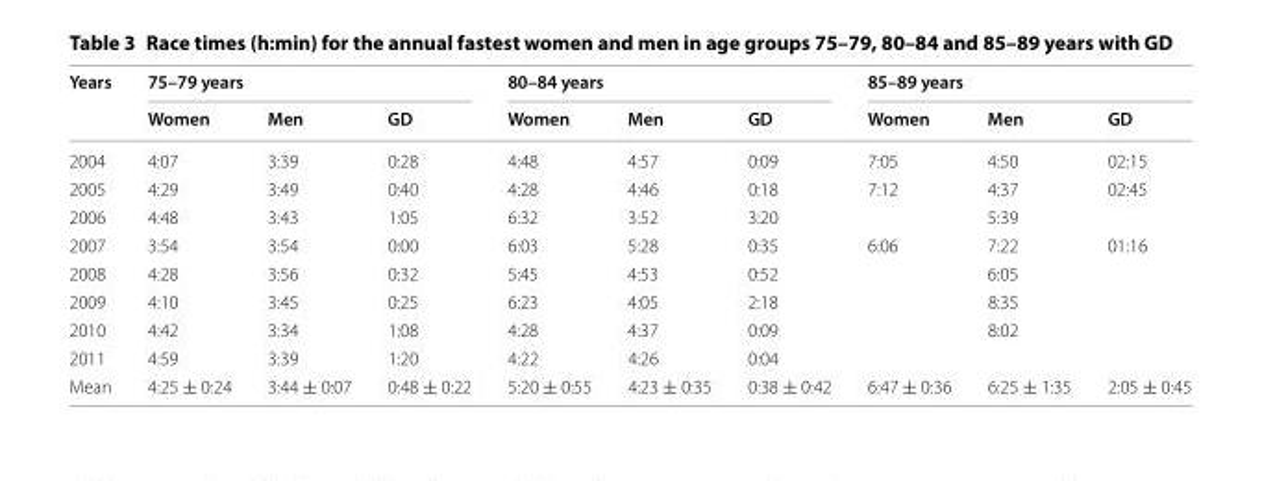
<table><thead><tr><td rowspan="2">Years</td><td colspan="3">75–79 years</td><td colspan="3">80–84 years</td><td colspan="3">85–89 years</td></tr><tr><td>Women</td><td>Men</td><td>GD</td><td>Women</td><td>Men</td><td>GD</td><td>Women</td><td>Men</td><td>GD</td></tr></thead><tbody><tr><td>2004</td><td>4:07</td><td>3:39</td><td>0:28</td><td>4:48</td><td>4:57</td><td>0:09</td><td>7:05</td><td>4:50</td><td>02:15</td></tr><tr><td>2005</td><td>4:29</td><td>3:49</td><td>0:40</td><td>4:28</td><td>4:46</td><td>0:18</td><td>7:12</td><td>4:37</td><td>02:45</td></tr><tr><td>2006</td><td>4:48</td><td>3:43</td><td>1:05</td><td>6:32</td><td>3:52</td><td>3:20</td><td></td><td>5:39</td><td></td></tr><tr><td>2007</td><td>3:54</td><td>3:54</td><td>0:00</td><td>6:03</td><td>5:28</td><td>0:35</td><td>6:06</td><td>7:22</td><td>01:16</td></tr><tr><td>2008</td><td>4:28</td><td>3:56</td><td>0:32</td><td>5:45</td><td>4:53</td><td>0:52</td><td></td><td>6:05</td><td></td></tr><tr><td>2009</td><td>4:10</td><td>3:45</td><td>0:25</td><td>6:23</td><td>4:05</td><td>2:18</td><td></td><td>8:35</td><td></td></tr><tr><td>2010</td><td>4:42</td><td>3:34</td><td>1:08</td><td>4:28</td><td>4:37</td><td>0:09</td><td></td><td>8:02</td><td></td></tr><tr><td>2011</td><td>4:59</td><td>3:39</td><td>1:20</td><td>4:22</td><td>4:26</td><td>0:04</td><td></td><td></td><td></td></tr><tr><td>Mean</td><td>4:25 ± 0:24</td><td>3:44 ± 0:07</td><td>0:48 ± 0:22</td><td>5:20 ± 0:55</td><td>4:23 ± 0:35</td><td>0:38 ± 0:42</td><td>6:47 ± 0:36</td><td>6:25 ± 1:35</td><td>2:05 ± 0:45</td></tr></tbody></table>